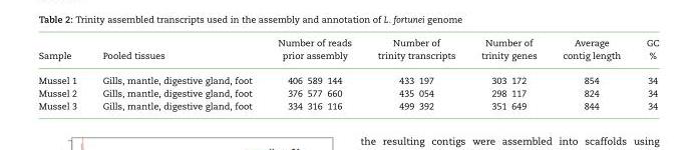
<table><thead><tr><td rowspan="2">Sample</td><td rowspan="2">Pooled tissues</td><td rowspan="2">Number of reads prior assembly</td><td rowspan="2">Number of trinity transcripts</td><td rowspan="2">Number of trinity genes</td><td rowspan="2">Average contig length</td><td rowspan="2">GC %</td></tr><tr></tr></thead><tbody><tr><td>Mussel 1</td><td>Gills, mantle, digestive gland, foot</td><td>406 589 144</td><td>433 197</td><td>303 172</td><td>854</td><td>34</td></tr><tr><td>Mussel 2</td><td>Gills, mantle, digestive gland, foot</td><td>376 577 660</td><td>435 054</td><td>298 117</td><td>824</td><td>34</td></tr><tr><td>Mussel 3</td><td>Gills, mantle, digestive gland, foot</td><td>334 316 116</td><td>499 392</td><td>351 649</td><td>844</td><td>34</td></tr></tbody></table>